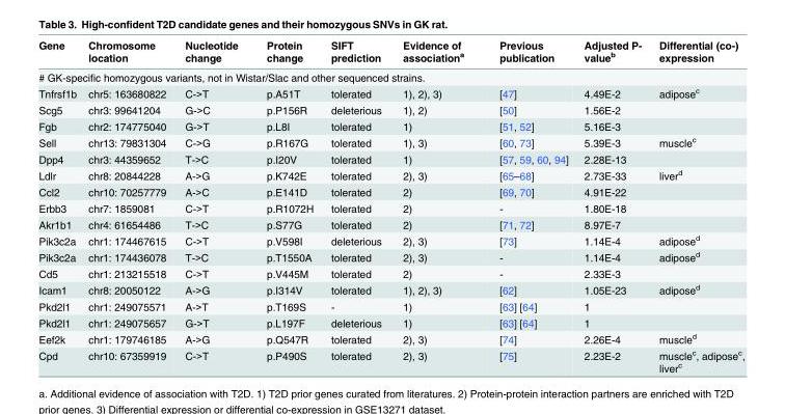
<table><thead><tr><td>Gene</td><td>Chromosome location</td><td>Nucleotide change</td><td>Protein change</td><td>SIFT prediction</td><td>Evidence of association<sup>a</sup></td><td>Previous publication</td><td>Adjusted P- value<sup>b</sup></td><td>Differential (co-) expression</td></tr></thead><tbody><tr><td colspan="9"># GK-specific homozygous variants, not in Wistar/Slac and other sequenced strains.</td></tr><tr><td>Tnfrsf1b</td><td>chr5: 163680822</td><td>C-&gt;T</td><td>p.A51T</td><td>tolerated</td><td>1), 2), 3)</td><td>[47]</td><td>4.49E-2</td><td>adipose<sup>c</sup></td></tr><tr><td>Scg5</td><td>chr3: 99641204</td><td>G-&gt;C</td><td>p.P156R</td><td>deleterious</td><td>1), 2)</td><td>[50]</td><td>1.56E-2</td><td></td></tr><tr><td>Fgb</td><td>chr2: 174775040</td><td>G-&gt;T</td><td>p.L8I</td><td>tolerated</td><td>1)</td><td>[51, 52]</td><td>5.16E-3</td><td></td></tr><tr><td>Sell</td><td>chr13: 79831304</td><td>C-&gt;G</td><td>p.R167G</td><td>tolerated</td><td>1), 3)</td><td>[60, 73]</td><td>5.39E-3</td><td>muscle<sup>c</sup></td></tr><tr><td>Dpp4</td><td>chr3: 44359652</td><td>T-&gt;C</td><td>p.I20V</td><td>tolerated</td><td>1)</td><td>[57, 59, 60, 94]</td><td>2.28E-13</td><td></td></tr><tr><td>Ldlr</td><td>chr8: 20844228</td><td>A-&gt;G</td><td>p.K742E</td><td>tolerated</td><td>2), 3)</td><td>[65–68]</td><td>2.73E-33</td><td>liver<sup>d</sup></td></tr><tr><td>Ccl2</td><td>chr10: 70257779</td><td>A-&gt;C</td><td>p.E141D</td><td>tolerated</td><td>2)</td><td>[69, 70]</td><td>4.91E-22</td><td></td></tr><tr><td>Erbb3</td><td>chr7: 1859081</td><td>C-&gt;T</td><td>p.R1072H</td><td>tolerated</td><td>2)</td><td>-</td><td>1.80E-18</td><td></td></tr><tr><td>Akr1b1</td><td>chr4: 61654486</td><td>T-&gt;C</td><td>p.S77G</td><td>tolerated</td><td>2)</td><td>[71, 72]</td><td>8.97E-7</td><td></td></tr><tr><td>Pik3c2a</td><td>chr1: 174467615</td><td>C-&gt;T</td><td>p.V598I</td><td>deleterious</td><td>2), 3)</td><td>[73]</td><td>1.14E-4</td><td>adipose<sup>d</sup></td></tr><tr><td>Pik3c2a</td><td>chr1: 174436078</td><td>T-&gt;C</td><td>p.T1550A</td><td>tolerated</td><td>2), 3)</td><td>-</td><td>1.14E-4</td><td>adipose<sup>d</sup></td></tr><tr><td>Cd5</td><td>chr1: 213215518</td><td>C-&gt;T</td><td>p.V445M</td><td>tolerated</td><td>2)</td><td>-</td><td>2.33E-3</td><td></td></tr><tr><td>Icam1</td><td>chr8: 20050122</td><td>A-&gt;G</td><td>p.I314V</td><td>tolerated</td><td>1), 2), 3)</td><td>[62]</td><td>1.05E-23</td><td>adipose<sup>d</sup></td></tr><tr><td>Pkd2l1</td><td>chr1: 249075571</td><td>A-&gt;T</td><td>p.T169S</td><td>-</td><td>1)</td><td>[63] [64]</td><td>1</td><td></td></tr><tr><td>Pkd2l1</td><td>chr1: 249075657</td><td>G-&gt;T</td><td>p.L197F</td><td>deleterious</td><td>1)</td><td>[63] [64]</td><td>1</td><td></td></tr><tr><td>Eef2k</td><td>chr1: 179746185</td><td>A-&gt;G</td><td>p.Q547R</td><td>tolerated</td><td>2), 3)</td><td>[74]</td><td>2.26E-4</td><td>muscle<sup>d</sup></td></tr><tr><td>Cpd</td><td>chr10: 67359919</td><td>C-&gt;T</td><td>p.P490S</td><td>tolerated</td><td>2), 3)</td><td>[75]</td><td>2.23E-2</td><td>muscle<sup>c</sup>, adipose<sup>c</sup>, liver<sup>c</sup></td></tr></tbody></table>